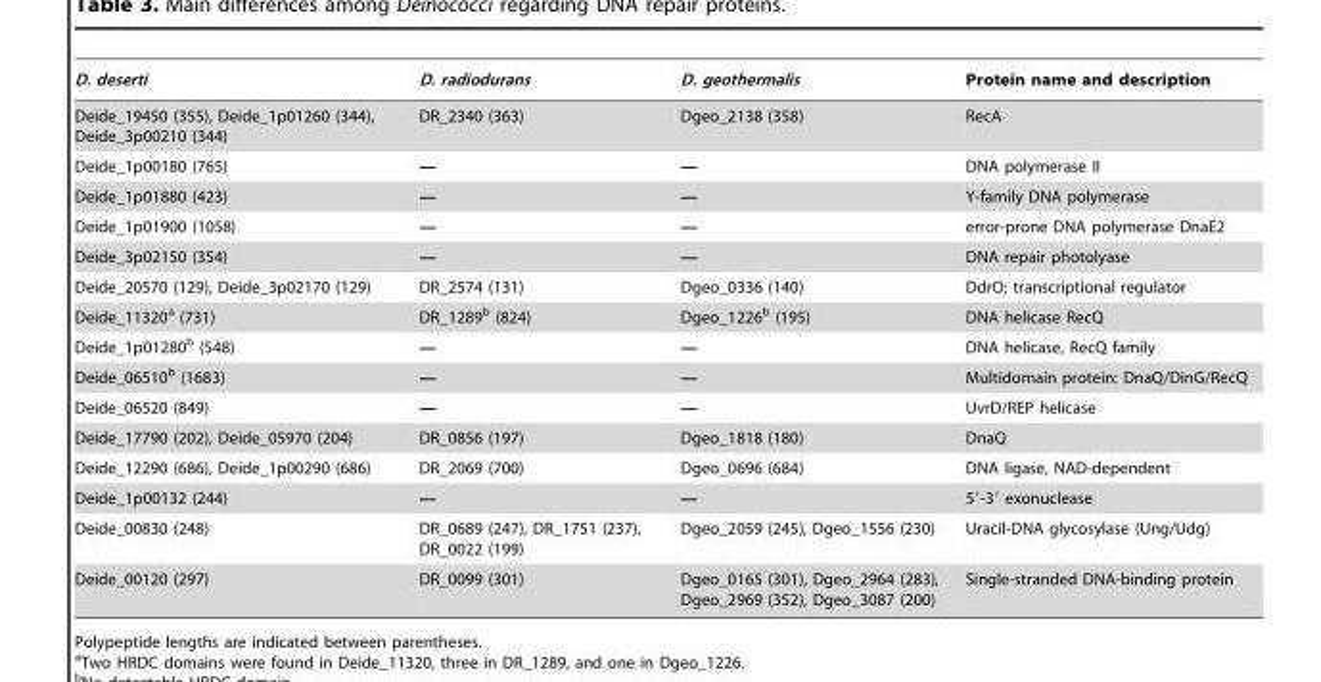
<table><thead><tr><td>D. deserti</td><td>D. radiodurans</td><td>D. geothermalis</td><td>Protein name and description</td></tr></thead><tbody><tr><td>Deide_19450 (355), Deide_1p01260 (344), Deide_3p00210 (344)</td><td>DR_2340 (363)</td><td>Dgeo_2138 (358)</td><td>RecA</td></tr><tr><td>Deide_1p00180 (765)</td><td>—</td><td>—</td><td>DNA polymerase II</td></tr><tr><td>Deide_1p01880 (423)</td><td>—</td><td>—</td><td>Y-family DNA polymerase</td></tr><tr><td>Deide_1p01900 (1058)</td><td>—</td><td>—</td><td>error-prone DNA polymerase DnaE2</td></tr><tr><td>Deide_3p02150 (354)</td><td>—</td><td>—</td><td>DNA repair photolyase</td></tr><tr><td>Deide_20570 (129), Deide_3p02170 (129)</td><td>DR_2574 (131)</td><td>Dgeo_0336 (140)</td><td>DdrO; transcriptional regulator</td></tr><tr><td>Deide_11320<sup>a</sup> (731)</td><td>DR_1289<sup>b</sup> (824)</td><td>Dgeo_1226<sup>b</sup> (195)</td><td>DNA helicase RecQ</td></tr><tr><td>Deide_1p01280<sup>b</sup> (548)</td><td>—</td><td>—</td><td>DNA helicase, RecQ family</td></tr><tr><td>Deide_06510<sup>b</sup> (1683)</td><td>—</td><td>—</td><td>Multidomain protein: DnaQ/DinG/RecQ</td></tr><tr><td>Deide_06520 (849)</td><td>—</td><td>—</td><td>UvrD/REP helicase</td></tr><tr><td>Deide_17790 (202), Deide_05970 (204)</td><td>DR_0856 (197)</td><td>Dgeo_1818 (180)</td><td>DnaQ</td></tr><tr><td>Deide_12290 (686), Deide_1p00290 (686)</td><td>DR_2069 (700)</td><td>Dgeo_0696 (684)</td><td>DNA ligase, NAD-dependent</td></tr><tr><td>Deide_1p00132 (244)</td><td>—</td><td>—</td><td>5′-3′ exonuclease</td></tr><tr><td>Deide_00830 (248)</td><td>DR_0689 (247), DR_1751 (237), DR_0022 (199)</td><td>Dgeo_2059 (245), Dgeo_1556 (230)</td><td>Uracil-DNA glycosylase (Ung/Udg)</td></tr><tr><td>Deide_00120 (297)</td><td>DR_0099 (301)</td><td>Dgeo_0165 (301), Dgeo_2964 (283), Dgeo_2969 (352), Dgeo_3087 (200)</td><td>Single-stranded DNA-binding protein</td></tr></tbody></table>